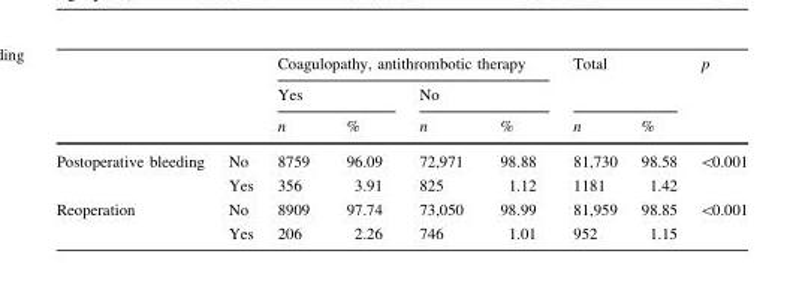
<table><thead><tr><td rowspan="3"></td><td rowspan="3"></td><td colspan="4">Coagulopathy, antithrombotic therapy</td><td rowspan="2" colspan="2">Total</td><td rowspan="3">p</td></tr><tr><td colspan="2">Yes</td><td colspan="2">No</td></tr><tr><td>n</td><td>%</td><td>n</td><td>%</td><td>n</td><td>%</td></tr></thead><tbody><tr><td rowspan="2">Postoperative bleeding</td><td>No</td><td>8759</td><td>96.09</td><td>72,971</td><td>98.88</td><td>81,730</td><td>98.58</td><td rowspan="2">&lt;0.001</td></tr><tr><td>Yes</td><td>356</td><td>3.91</td><td>825</td><td>1.12</td><td>1181</td><td>1.42</td></tr><tr><td rowspan="2">Reoperation</td><td>No</td><td>8909</td><td>97.74</td><td>73,050</td><td>98.99</td><td>81,959</td><td>98.85</td><td rowspan="2">&lt;0.001</td></tr><tr><td>Yes</td><td>206</td><td>2.26</td><td>746</td><td>1.01</td><td>952</td><td>1.15</td></tr></tbody></table>